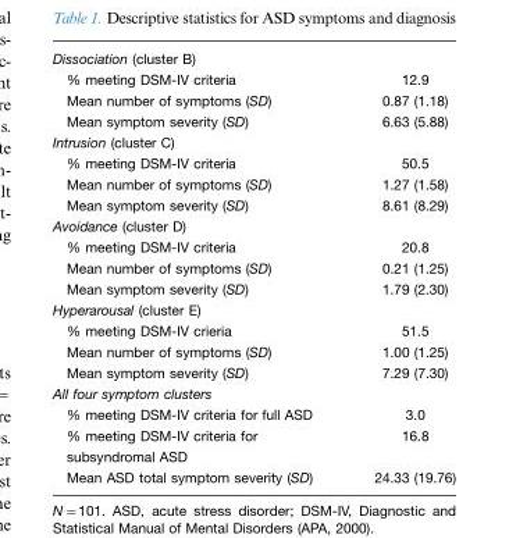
<table><thead><tr><td>Dissociation (cluster B)</td><td></td></tr></thead><tbody><tr><td>% meeting DSM-IV criteria</td><td>12.9</td></tr><tr><td>Mean number of symptoms (SD)</td><td>0.87 (1.18)</td></tr><tr><td>Mean symptom severity (SD)</td><td>6.63 (5.88)</td></tr><tr><td colspan="2">Intrusion (cluster C)</td></tr><tr><td>% meeting DSM-IV criteria</td><td>50.5</td></tr><tr><td>Mean number of symptoms (SD)</td><td>1.27 (1.58)</td></tr><tr><td>Mean symptom severity (SD)</td><td>8.61 (8.29)</td></tr><tr><td colspan="2">Avoidance (cluster D)</td></tr><tr><td>% meeting DSM-IV criteria</td><td>20.8</td></tr><tr><td>Mean number of symptoms (SD)</td><td>0.21 (1.25)</td></tr><tr><td>Mean symptom severity (SD)</td><td>1.79 (2.30)</td></tr><tr><td colspan="2">Hyperarousal (cluster E)</td></tr><tr><td>% meeting DSM-IV crieria</td><td>51.5</td></tr><tr><td>Mean number of symptoms (SD)</td><td>1.00 (1.25)</td></tr><tr><td>Mean symptom severity (SD)</td><td>7.29 (7.30)</td></tr><tr><td colspan="2">All four symptom clusters</td></tr><tr><td>% meeting DSM-IV criteria for full ASD</td><td>3.0</td></tr><tr><td>% meeting DSM-IV criteria for subsyndromal ASD</td><td>16.8</td></tr><tr><td>Mean ASD total symptom severity (SD)</td><td>24.33 (19.76)</td></tr></tbody></table>